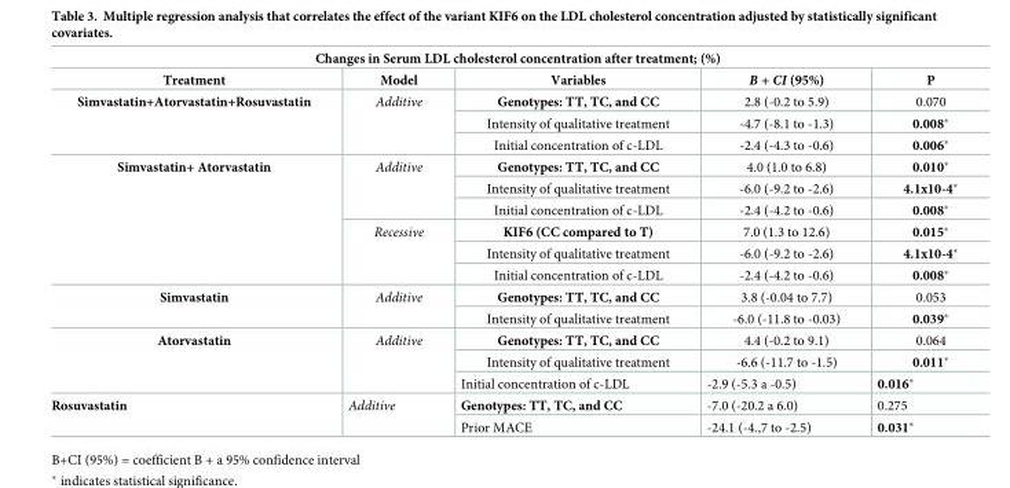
<table><thead><tr><td colspan="5">Changes in Serum LDL cholesterol concentration after treatment; (%)</td></tr><tr><td>Treatment</td><td>Model</td><td>Variables</td><td>B + CI (95%)</td><td>P</td></tr></thead><tbody><tr><td rowspan="3">Simvastatin+Atorvastatin+Rosuvastatin</td><td rowspan="3">Additive</td><td>Genotypes: TT, TC, and CC</td><td>2.8 (-0.2 to 5.9)</td><td>0.070</td></tr><tr><td>Intensity of qualitative treatment</td><td>-4.7 (-8.1 to -1.3)</td><td>0.008*</td></tr><tr><td>Initial concentration of c-LDL</td><td>-2.4 (-4.3 to -0.6)</td><td>0.006*</td></tr><tr><td rowspan="6">Simvastatin+ Atorvastatin</td><td rowspan="3">Additive</td><td>Genotypes: TT, TC, and CC</td><td>4.0 (1.0 to 6.8)</td><td>0.010*</td></tr><tr><td>Intensity of qualitative treatment</td><td>-6.0 (-9.2 to -2.6)</td><td>4.1x10-4*</td></tr><tr><td>Initial concentration of c-LDL</td><td>-2.4 (-4.2 to -0.6)</td><td>0.008*</td></tr><tr><td rowspan="3">Recessive</td><td>KIF6 (CC compared to T)</td><td>7.0 (1.3 to 12.6)</td><td>0.015*</td></tr><tr><td>Intensity of qualitative treatment</td><td>-6.0 (-9.2 to -2.6)</td><td>4.1x10-4*</td></tr><tr><td>Initial concentration of c-LDL</td><td>-2.4 (-4.2 to -0.6)</td><td>0.008*</td></tr><tr><td rowspan="2">Simvastatin</td><td rowspan="2">Additive</td><td>Genotypes: TT, TC, and CC</td><td>3.8 (-0.04 to 7.7)</td><td>0.053</td></tr><tr><td>Intensity of qualitative treatment</td><td>-6.0 (-11.8 to -0.03)</td><td>0.039*</td></tr><tr><td rowspan="3">Atorvastatin</td><td rowspan="3">Additive</td><td>Genotypes: TT, TC, and CC</td><td>4.4 (-0.2 to 9.1)</td><td>0.064</td></tr><tr><td>Intensity of qualitative treatment</td><td>-6.6 (-11.7 to -1.5)</td><td>0.011*</td></tr><tr><td>Initial concentration of c-LDL</td><td>-2.9 (-5.3 a -0.5)</td><td>0.016*</td></tr><tr><td rowspan="2">Rosuvastatin</td><td rowspan="2">Additive</td><td>Genotypes: TT, TC, and CC</td><td>-7.0 (-20.2 a 6.0)</td><td>0.275</td></tr><tr><td>Prior MACE</td><td>-24.1 (-4.,7 to -2.5)</td><td>0.031*</td></tr></tbody></table>